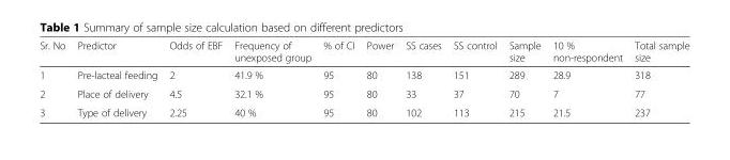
<table><thead><tr><td>Sr. No</td><td>Predictor</td><td>Odds of EBF</td><td>Frequency of unexposed group</td><td>% of CI</td><td>Power</td><td>SS cases</td><td>SS control</td><td>Sample size</td><td>10 % non-respondent</td><td>Total sample size</td></tr></thead><tbody><tr><td>1</td><td>Pre-lacteal feeding</td><td>2</td><td>41.9 %</td><td>95</td><td>80</td><td>138</td><td>151</td><td>289</td><td>28.9</td><td>318</td></tr><tr><td>2</td><td>Place of delivery</td><td>4.5</td><td>32.1 %</td><td>95</td><td>80</td><td>33</td><td>37</td><td>70</td><td>7</td><td>77</td></tr><tr><td>3</td><td>Type of delivery</td><td>2.25</td><td>40 %</td><td>95</td><td>80</td><td>102</td><td>113</td><td>215</td><td>21.5</td><td>237</td></tr></tbody></table>